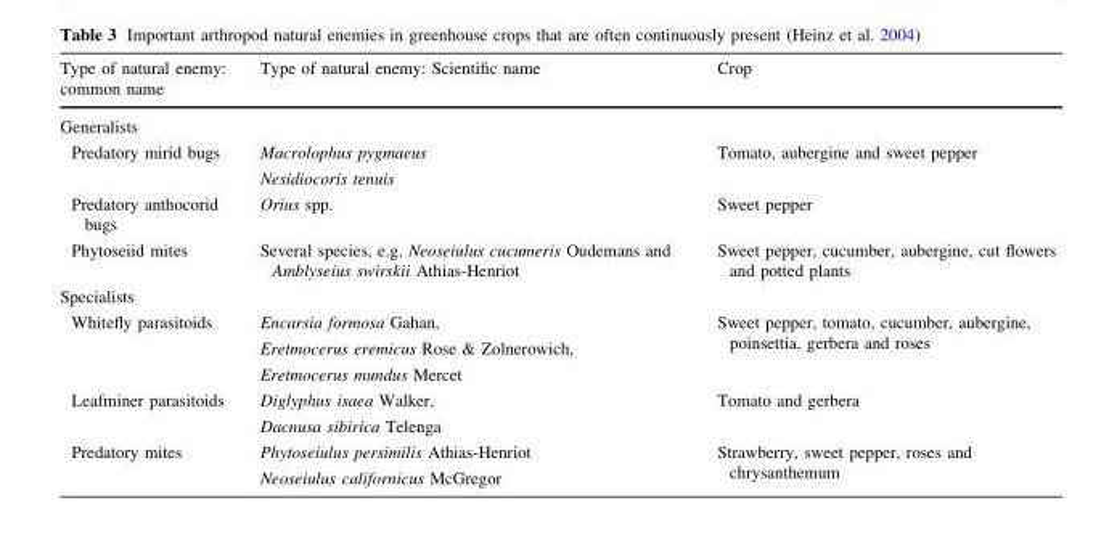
<table><thead><tr><td>Type of natural enemy: common name</td><td>Type of natural enemy: Scientific name</td><td>Crop</td></tr></thead><tbody><tr><td colspan="3">Generalists</td></tr><tr><td>Predatory mirid bugs</td><td>Macrolophus pygmaeus Nesidiocoris tenuis</td><td>Tomato, aubergine and sweet pepper</td></tr><tr><td>Predatory anthocorid bugs</td><td>Orius spp.</td><td>Sweet pepper</td></tr><tr><td>Phytoseiid mites</td><td>Several species, e.g. Neoseiulus cucumeris Oudemans and Amblyseius swirskii Athias-Henriot</td><td>Sweet pepper, cucumber, aubergine, cut flowers and potted plants</td></tr><tr><td colspan="3">Specialists</td></tr><tr><td>Whitefly parasitoids</td><td>Encarsia formosa Gahan, Eretmocerus eremicus Rose &amp; Zolnerowich, Eretmocerus mundus Mercet</td><td>Sweet pepper, tomato, cucumber, aubergine, poinsettia, gerbera and roses</td></tr><tr><td>Leafminer parasitoids</td><td>Diglyphus isaea Walker, Dacnusa sibirica Telenga</td><td>Tomato and gerbera</td></tr><tr><td>Predatory mites</td><td>Phytoseiulus persimilis Athias-Henriot Neoseiulus californicus McGregor</td><td>Strawberry, sweet pepper, roses and chrysanthemum</td></tr></tbody></table>